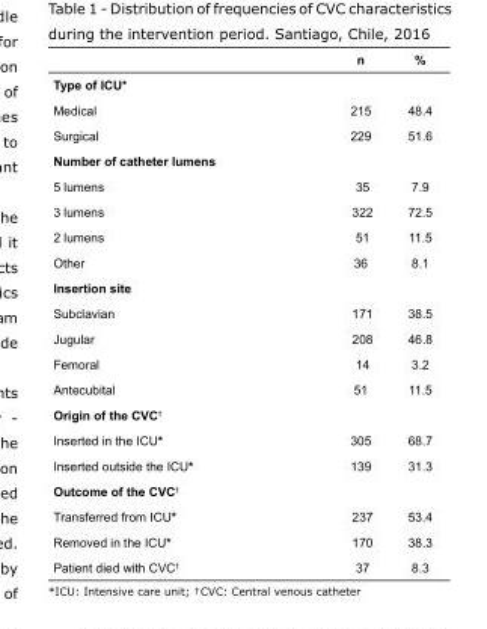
<table><thead><tr><td></td><td>n</td><td>%</td></tr></thead><tbody><tr><td colspan="3">Type of ICU*</td></tr><tr><td>Medical</td><td>215</td><td>48.4</td></tr><tr><td>Surgical</td><td>229</td><td>51.6</td></tr><tr><td colspan="3">Number of catheter lumens</td></tr><tr><td>5 lumens</td><td>35</td><td>7.9</td></tr><tr><td>3 lumens</td><td>322</td><td>72.5</td></tr><tr><td>2 lumens</td><td>51</td><td>11.5</td></tr><tr><td>Other</td><td>36</td><td>8.1</td></tr><tr><td colspan="3">Insertion site</td></tr><tr><td>Subclavian</td><td>171</td><td>38.5</td></tr><tr><td>Jugular</td><td>208</td><td>46.8</td></tr><tr><td>Femoral</td><td>14</td><td>3.2</td></tr><tr><td>Antecubital</td><td>51</td><td>11.5</td></tr><tr><td colspan="3">Origin of the CVC<sup>†</sup></td></tr><tr><td>Inserted in the ICU*</td><td>305</td><td>68.7</td></tr><tr><td>Inserted outside the ICU*</td><td>139</td><td>31.3</td></tr><tr><td colspan="3">Outcome of the CVC<sup>†</sup></td></tr><tr><td>Transferred from ICU*</td><td>237</td><td>53.4</td></tr><tr><td>Removed in the ICU*</td><td>170</td><td>38.3</td></tr><tr><td>Patient died with CVC<sup>†</sup></td><td>37</td><td>8.3</td></tr></tbody></table>